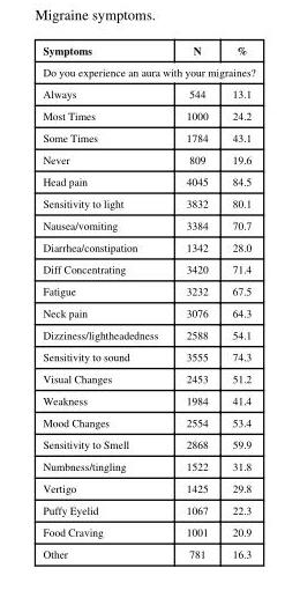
<table><thead><tr><td>Symptoms</td><td>N</td><td>%</td></tr></thead><tbody><tr><td colspan="3">Do you experience an aura with your migraines?</td></tr><tr><td>Always</td><td>544</td><td>13.1</td></tr><tr><td>Most Times</td><td>1000</td><td>24.2</td></tr><tr><td>Some Times</td><td>1784</td><td>43.1</td></tr><tr><td>Never</td><td>809</td><td>19.6</td></tr><tr><td>Head pain</td><td>4045</td><td>84.5</td></tr><tr><td>Sensitivity to light</td><td>3832</td><td>80.1</td></tr><tr><td>Nausea/vomiting</td><td>3384</td><td>70.7</td></tr><tr><td>Diarrhea/constipation</td><td>1342</td><td>28.0</td></tr><tr><td>Diff Concentrating</td><td>3420</td><td>71.4</td></tr><tr><td>Fatigue</td><td>3232</td><td>67.5</td></tr><tr><td>Neck pain</td><td>3076</td><td>64.3</td></tr><tr><td>Dizziness/lightheadedness</td><td>2588</td><td>54.1</td></tr><tr><td>Sensitivity to sound</td><td>3555</td><td>74.3</td></tr><tr><td>Visual Changes</td><td>2453</td><td>51.2</td></tr><tr><td>Weakness</td><td>1984</td><td>41.4</td></tr><tr><td>Mood Changes</td><td>2554</td><td>53.4</td></tr><tr><td>Sensitivity to Smell</td><td>2868</td><td>59.9</td></tr><tr><td>Numbness/tingling</td><td>1522</td><td>31.8</td></tr><tr><td>Vertigo</td><td>1425</td><td>29.8</td></tr><tr><td>Puffy Eyelid</td><td>1067</td><td>22.3</td></tr><tr><td>Food Craving</td><td>1001</td><td>20.9</td></tr><tr><td>Other</td><td>781</td><td>16.3</td></tr></tbody></table>